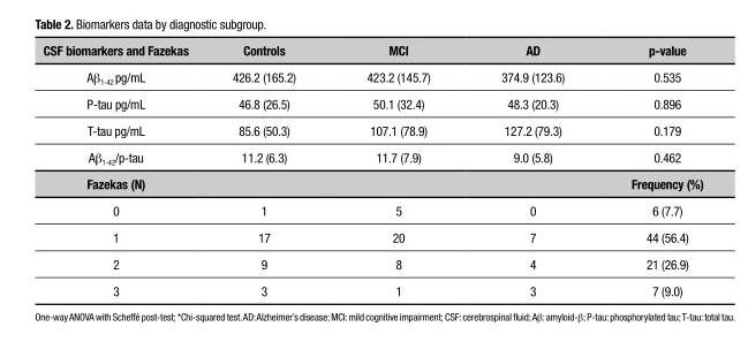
<table><thead><tr><td>CSF biomarkers and Fazekas</td><td>Controls</td><td>MCI</td><td>AD</td><td>p-value</td></tr></thead><tbody><tr><td>Aβ<sub>1-42</sub> pg/mL</td><td>426.2 (165.2)</td><td>423.2 (145.7)</td><td>374.9 (123.6)</td><td>0.535</td></tr><tr><td>P-tau pg/mL</td><td>46.8 (26.5)</td><td>50.1 (32.4)</td><td>48.3 (20.3)</td><td>0.896</td></tr><tr><td>T-tau pg/mL</td><td>85.6 (50.3)</td><td>107.1 (78.9)</td><td>127.2 (79.3)</td><td>0.179</td></tr><tr><td>Aβ<sub>1-42</sub>/p-tau</td><td>11.2 (6.3)</td><td>11.7 (7.9)</td><td>9.0 (5.8)</td><td>0.462</td></tr><tr><td>Fazekas (N)</td><td></td><td></td><td></td><td>Frequency (%)</td></tr><tr><td>0</td><td>1</td><td>5</td><td>0</td><td>6 (7.7)</td></tr><tr><td>1</td><td>17</td><td>20</td><td>7</td><td>44 (56.4)</td></tr><tr><td>2</td><td>9</td><td>8</td><td>4</td><td>21 (26.9)</td></tr><tr><td>3</td><td>3</td><td>1</td><td>3</td><td>7 (9.0)</td></tr></tbody></table>